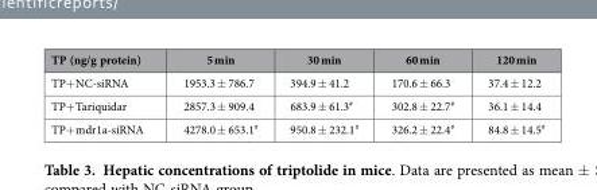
<table><thead><tr><td>TP (ng/g protein)</td><td>5 min</td><td>30 min</td><td>60 min</td><td>120 min</td></tr></thead><tbody><tr><td>TP+ NC-siRNA</td><td>1953.3 ± 786.7</td><td>394.9 ± 41.2</td><td>170.6 ± 66.3</td><td>37.4 ± 12.2</td></tr><tr><td>TP+ Tariquidar</td><td>2857.3 ± 909.4</td><td>683.9 ± 61.3<sup>#</sup></td><td>302.8 ± 22.7<sup>#</sup></td><td>36.1 ± 14.4</td></tr><tr><td>TP+ mdr1a-siRNA</td><td>4278.0 ± 653.1<sup>#</sup></td><td>950.8 ± 232.1<sup>#</sup></td><td>326.2 ± 22.4<sup>#</sup></td><td>84.8 ± 14.5<sup>#</sup></td></tr></tbody></table>